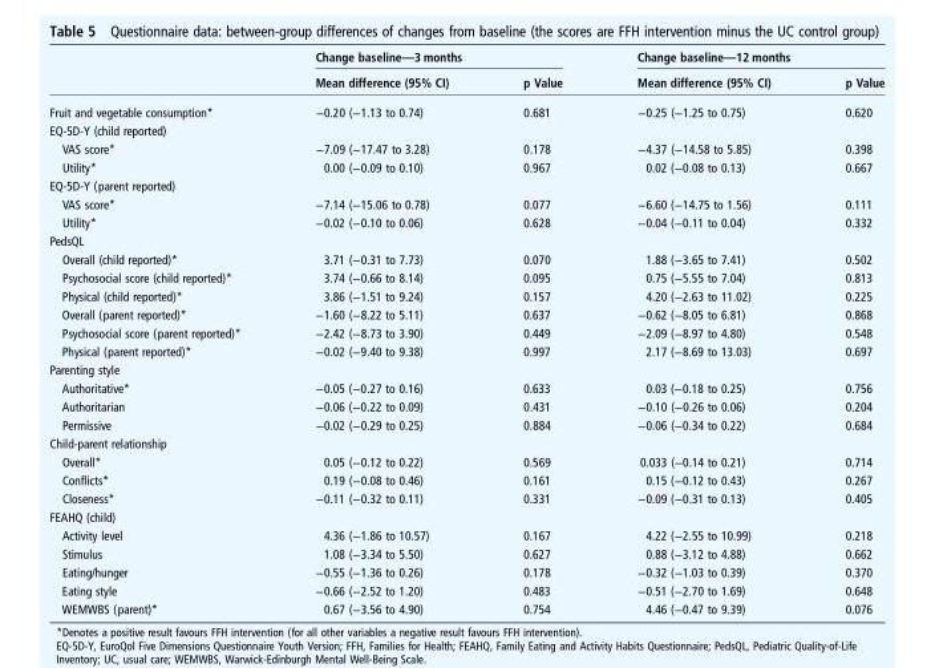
<table><thead><tr><td rowspan="2"></td><td colspan="2">Change baseline—3 months</td><td colspan="2">Change baseline—12 months</td></tr><tr><td>Mean difference (95% CI)</td><td>p Value</td><td>Mean difference (95% CI)</td><td>p Value</td></tr></thead><tbody><tr><td>Fruit and vegetable consumption*</td><td>−0.20 (−1.13 to 0.74)</td><td>0.681</td><td>−0.25 (−1.25 to 0.75)</td><td>0.620</td></tr><tr><td colspan="5">EQ-5D-Y (child reported)</td></tr><tr><td>VAS score*</td><td>−7.09 (−17.47 to 3.28)</td><td>0.178</td><td>−4.37 (−14.58 to 5.85)</td><td>0.398</td></tr><tr><td>Utility*</td><td>0.00 (−0.09 to 0.10)</td><td>0.967</td><td>0.02 (−0.08 to 0.13)</td><td>0.667</td></tr><tr><td colspan="5">EQ-5D-Y (parent reported)</td></tr><tr><td>VAS score*</td><td>−7.14 (−15.06 to 0.78)</td><td>0.077</td><td>−6.60 (−14.75 to 1.56)</td><td>0.111</td></tr><tr><td>Utility*</td><td>−0.02 (−0.10 to 0.06)</td><td>0.628</td><td>−0.04 (−0.11 to 0.04)</td><td>0.332</td></tr><tr><td colspan="5">PedsQL</td></tr><tr><td>Overall (child reported)*</td><td>3.71 (−0.31 to 7.73)</td><td>0.070</td><td>1.88 (−3.65 to 7.41)</td><td>0.502</td></tr><tr><td>Psychosocial score (child reported)*</td><td>3.74 (−0.66 to 8.14)</td><td>0.095</td><td>0.75 (−5.55 to 7.04)</td><td>0.813</td></tr><tr><td>Physical (child reported)*</td><td>3.86 (−1.51 to 9.24)</td><td>0.157</td><td>4.20 (−2.63 to 11.02)</td><td>0.225</td></tr><tr><td>Overall (parent reported)*</td><td>−1.60 (−8.22 to 5.11)</td><td>0.637</td><td>−0.62 (−8.05 to 6.81)</td><td>0.868</td></tr><tr><td>Psychosocial score (parent reported)*</td><td>−2.42 (−8.73 to 3.90)</td><td>0.449</td><td>−2.09 (−8.97 to 4.80)</td><td>0.548</td></tr><tr><td>Physical (parent reported)*</td><td>−0.02 (−9.40 to 9.38)</td><td>0.997</td><td>2.17 (−8.69 to 13.03)</td><td>0.697</td></tr><tr><td colspan="5">Parenting style</td></tr><tr><td>Authoritative*</td><td>−0.05 (−0.27 to 0.16)</td><td>0.633</td><td>0.03 (−0.18 to 0.25)</td><td>0.756</td></tr><tr><td>Authoritarian</td><td>−0.06 (−0.22 to 0.09)</td><td>0.431</td><td>−0.10 (−0.26 to 0.06)</td><td>0.204</td></tr><tr><td>Permissive</td><td>−0.02 (−0.29 to 0.25)</td><td>0.884</td><td>−0.06 (−0.34 to 0.22)</td><td>0.684</td></tr><tr><td colspan="5">Child-parent relationship</td></tr><tr><td>Overall*</td><td>0.05 (−0.12 to 0.22)</td><td>0.569</td><td>0.033 (−0.14 to 0.21)</td><td>0.714</td></tr><tr><td>Conflicts*</td><td>0.19 (−0.08 to 0.46)</td><td>0.161</td><td>0.15 (−0.12 to 0.43)</td><td>0.267</td></tr><tr><td>Closeness*</td><td>−0.11 (−0.32 to 0.11)</td><td>0.331</td><td>−0.09 (−0.31 to 0.13)</td><td>0.405</td></tr><tr><td colspan="5">FEAHQ (child)</td></tr><tr><td>Activity level</td><td>4.36 (−1.86 to 10.57)</td><td>0.167</td><td>4.22 (−2.55 to 10.99)</td><td>0.218</td></tr><tr><td>Stimulus</td><td>1.08 (−3.34 to 5.50)</td><td>0.627</td><td>0.88 (−3.12 to 4.88)</td><td>0.662</td></tr><tr><td>Eating/hunger</td><td>−0.55 (−1.36 to 0.26)</td><td>0.178</td><td>−0.32 (−1.03 to 0.39)</td><td>0.370</td></tr><tr><td>Eating style</td><td>−0.66 (−2.52 to 1.20)</td><td>0.483</td><td>−0.51 (−2.70 to 1.69)</td><td>0.648</td></tr><tr><td>WEMWBS (parent)*</td><td>0.67 (−3.56 to 4.90)</td><td>0.754</td><td>4.46 (−0.47 to 9.39)</td><td>0.076</td></tr></tbody></table>